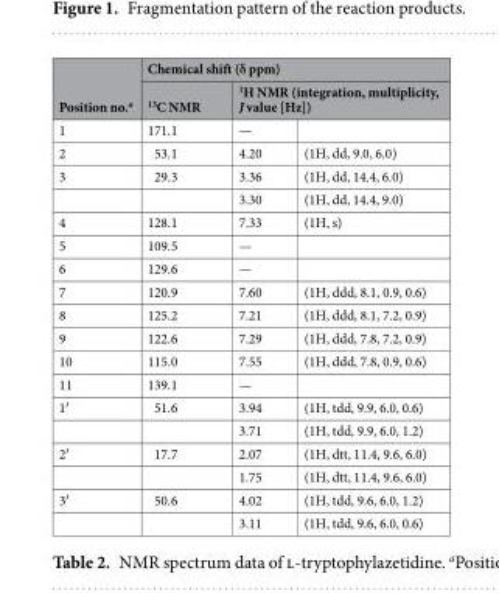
<table><thead><tr><td rowspan="3">Position no.<sup>a</sup> 1</td><td colspan="3">Chemical shift (δ ppm)</td></tr><tr><td rowspan="2"><sup>13</sup>C NMR 171.1</td><td colspan="2"><sup>1</sup>H NMR (integration, multiplicity, J value [Hz])</td></tr><tr><td>—</td><td></td></tr></thead><tbody><tr><td>2</td><td>53.1</td><td>4.20</td><td>(1H, dd, 9.0, 6.0)</td></tr><tr><td rowspan="2">3</td><td>29.3</td><td>3.36</td><td>(1H, dd, 14.4, 6.0)</td></tr><tr><td></td><td>3.30</td><td>(1H, dd, 14.4, 9.0)</td></tr><tr><td>4</td><td>128.1</td><td>7.33</td><td>(1H, s)</td></tr><tr><td>5</td><td>109.5</td><td>—</td><td></td></tr><tr><td>6</td><td>129.6</td><td>—</td><td></td></tr><tr><td>7</td><td>120.9</td><td>7.60</td><td>(1H, ddd, 8.1, 0.9, 0.6)</td></tr><tr><td>8</td><td>125.2</td><td>7.21</td><td>(1H, ddd, 8.1, 7.2, 0.9)</td></tr><tr><td>9</td><td>122.6</td><td>7.29</td><td>(1H, ddd, 7.8, 7.2, 0.9)</td></tr><tr><td>10</td><td>115.0</td><td>7.55</td><td>(1H, ddd, 7.8, 0.9, 0.6)</td></tr><tr><td>11</td><td>139.1</td><td>—</td><td></td></tr><tr><td rowspan="2">1′</td><td>51.6</td><td>3.94</td><td>(1H, tdd, 9.9, 6.0, 0.6)</td></tr><tr><td></td><td>3.71</td><td>(1H, tdd, 9.9, 6.0, 1.2)</td></tr><tr><td rowspan="2">2′</td><td>17.7</td><td>2.07</td><td>(1H, dtt, 11.4, 9.6, 6.0)</td></tr><tr><td></td><td>1.75</td><td>(1H, dtt, 11.4, 9.6, 6.0)</td></tr><tr><td rowspan="2">3′</td><td>50.6</td><td>4.02</td><td>(1H, tdd, 9.6, 6.0, 1.2)</td></tr><tr><td></td><td>3.11</td><td>(1H, tdd, 9.6, 6.0, 0.6)</td></tr></tbody></table>